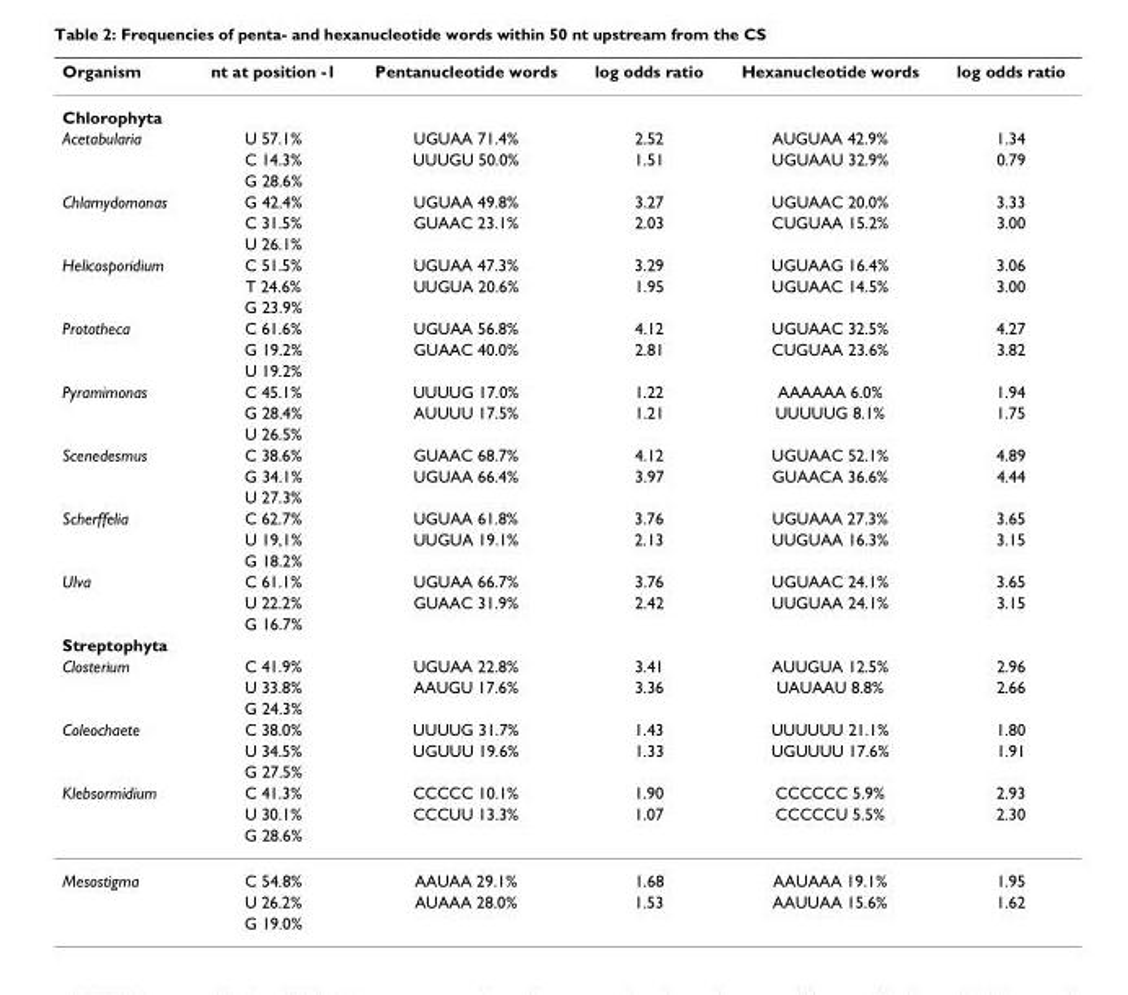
<table><thead><tr><td>Organism</td><td>nt at position -1</td><td>Pentanucleotide words</td><td>log odds ratio</td><td>Hexanucleotide words</td><td>log odds ratio</td></tr></thead><tbody><tr><td colspan="6">Chlorophyta</td></tr><tr><td rowspan="3">Acetabularia</td><td>U 57.1%</td><td>UGUAA 71.4%</td><td>2.52</td><td>AUGUAA 42.9%</td><td>1.34</td></tr><tr><td>C 14.3%</td><td>UUUGU 50.0%</td><td>1.51</td><td>UGUAAU 32.9%</td><td>0.79</td></tr><tr><td>G 28.6%</td><td></td><td></td><td></td><td></td></tr><tr><td rowspan="3">Chlamydomonas</td><td>G 42.4%</td><td>UGUAA 49.8%</td><td>3.27</td><td>UGUAAC 20.0%</td><td>3.33</td></tr><tr><td>C 31.5%</td><td>GUAAC 23.1%</td><td>2.03</td><td>CUGUAA 15.2%</td><td>3.00</td></tr><tr><td>U 26.1%</td><td></td><td></td><td></td><td></td></tr><tr><td rowspan="3">Helicosporidium</td><td>C 51.5%</td><td>UGUAA 47.3%</td><td>3.29</td><td>UGUAAG 16.4%</td><td>3.06</td></tr><tr><td>T 24.6%</td><td>UUGUA 20.6%</td><td>1.95</td><td>UGUAAC 14.5%</td><td>3.00</td></tr><tr><td>G 23.9%</td><td></td><td></td><td></td><td></td></tr><tr><td rowspan="3">Prototheca</td><td>C 61.6%</td><td>UGUAA 56.8%</td><td>4.12</td><td>UGUAAC 32.5%</td><td>4.27</td></tr><tr><td>G 19.2%</td><td>GUAAC 40.0%</td><td>2.81</td><td>CUGUAA 23.6%</td><td>3.82</td></tr><tr><td>U 19.2%</td><td></td><td></td><td></td><td></td></tr><tr><td rowspan="3">Pyramimonas</td><td>C 45.1%</td><td>UUUUG 17.0%</td><td>1.22</td><td>AAAAAA 6.0%</td><td>1.94</td></tr><tr><td>G 28.4%</td><td>AUUUU 17.5%</td><td>1.21</td><td>UUUUUG 8.1%</td><td>1.75</td></tr><tr><td>U 26.5%</td><td></td><td></td><td></td><td></td></tr><tr><td rowspan="3">Scenedesmus</td><td>C 38.6%</td><td>GUAAC 68.7%</td><td>4.12</td><td>UGUAAC 52.1%</td><td>4.89</td></tr><tr><td>G 34.1%</td><td>UGUAA 66.4%</td><td>3.97</td><td>GUAACA 36.6%</td><td>4.44</td></tr><tr><td>U 27.3%</td><td></td><td></td><td></td><td></td></tr><tr><td rowspan="3">Scherffelia</td><td>C 62.7%</td><td>UGUAA 61.8%</td><td>3.76</td><td>UGUAAA 27.3%</td><td>3.65</td></tr><tr><td>U 19,1%</td><td>UUGUA 19.1%</td><td>2.13</td><td>UUGUAA 16.3%</td><td>3.15</td></tr><tr><td>G 18.2%</td><td></td><td></td><td></td><td></td></tr><tr><td rowspan="3">Ulva</td><td>C 61.1%</td><td>UGUAA 66.7%</td><td>3.76</td><td>UGUAAC 24.1%</td><td>3.65</td></tr><tr><td>U 22.2%</td><td>GUAAC 31.9%</td><td>2.42</td><td>UUGUAA 24.1%</td><td>3.15</td></tr><tr><td>G 16.7%</td><td></td><td></td><td></td><td></td></tr><tr><td colspan="6">Streptophyta</td></tr><tr><td rowspan="3">Closterium</td><td>C 41.9%</td><td>UGUAA 22.8%</td><td>3.41</td><td>AUUGUA 12.5%</td><td>2.96</td></tr><tr><td>U 33.8%</td><td>AAUGU 17.6%</td><td>3.36</td><td>UAUAAU 8.8%</td><td>2.66</td></tr><tr><td>G 24.3%</td><td></td><td></td><td></td><td></td></tr><tr><td rowspan="3">Coleochaete</td><td>C 38.0%</td><td>UUUUG 31.7%</td><td>1.43</td><td>UUUUUU 21.1%</td><td>1.80</td></tr><tr><td>U 34.5%</td><td>UGUUU 19.6%</td><td>1.33</td><td>UGUUUU 17.6%</td><td>1.91</td></tr><tr><td>G 27.5%</td><td></td><td></td><td></td><td></td></tr><tr><td rowspan="3">Klebsormidium</td><td>C 41.3%</td><td>CCCCC 10.1%</td><td>1.90</td><td>CCCCCC 5.9%</td><td>2.93</td></tr><tr><td>U 30.1%</td><td>CCCUU 13.3%</td><td>1.07</td><td>CCCCCU 5.5%</td><td>2.30</td></tr><tr><td>G 28.6%</td><td></td><td></td><td></td><td></td></tr><tr><td rowspan="3">Mesostigma</td><td>C 54.8%</td><td>AAUAA 29.1%</td><td>1.68</td><td>AAUAAA 19.1%</td><td>1.95</td></tr><tr><td>U 26.2%</td><td>AUAAA 28.0%</td><td>1.53</td><td>AAUUAA 15.6%</td><td>1.62</td></tr><tr><td>G 19.0%</td><td></td><td></td><td></td><td></td></tr></tbody></table>